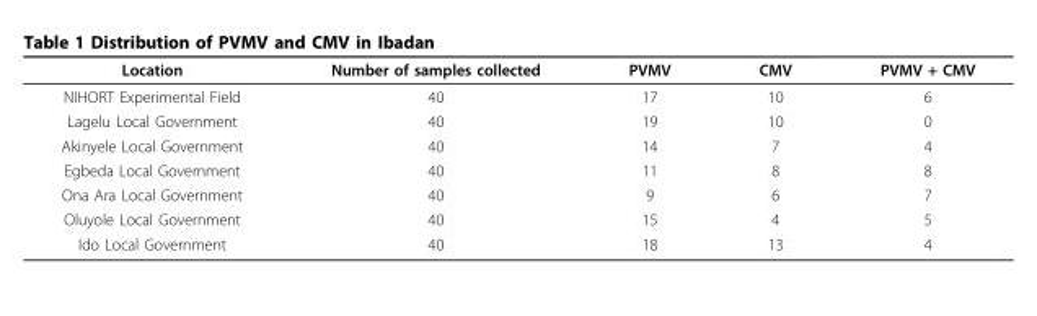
<table><thead><tr><td>Location</td><td>Number of samples collected</td><td>PVMV</td><td>CMV</td><td>PVMV + CMV</td></tr></thead><tbody><tr><td>NIHORT Experimental Field</td><td>40</td><td>17</td><td>10</td><td>6</td></tr><tr><td>Lagelu Local Government</td><td>40</td><td>19</td><td>10</td><td>0</td></tr><tr><td>Akinyele Local Government</td><td>40</td><td>14</td><td>7</td><td>4</td></tr><tr><td>Egbeda Local Government</td><td>40</td><td>11</td><td>8</td><td>8</td></tr><tr><td>Ona Ara Local Government</td><td>40</td><td>9</td><td>6</td><td>7</td></tr><tr><td>Oluyole Local Government</td><td>40</td><td>15</td><td>4</td><td>5</td></tr><tr><td>Ido Local Government</td><td>40</td><td>18</td><td>13</td><td>4</td></tr></tbody></table>